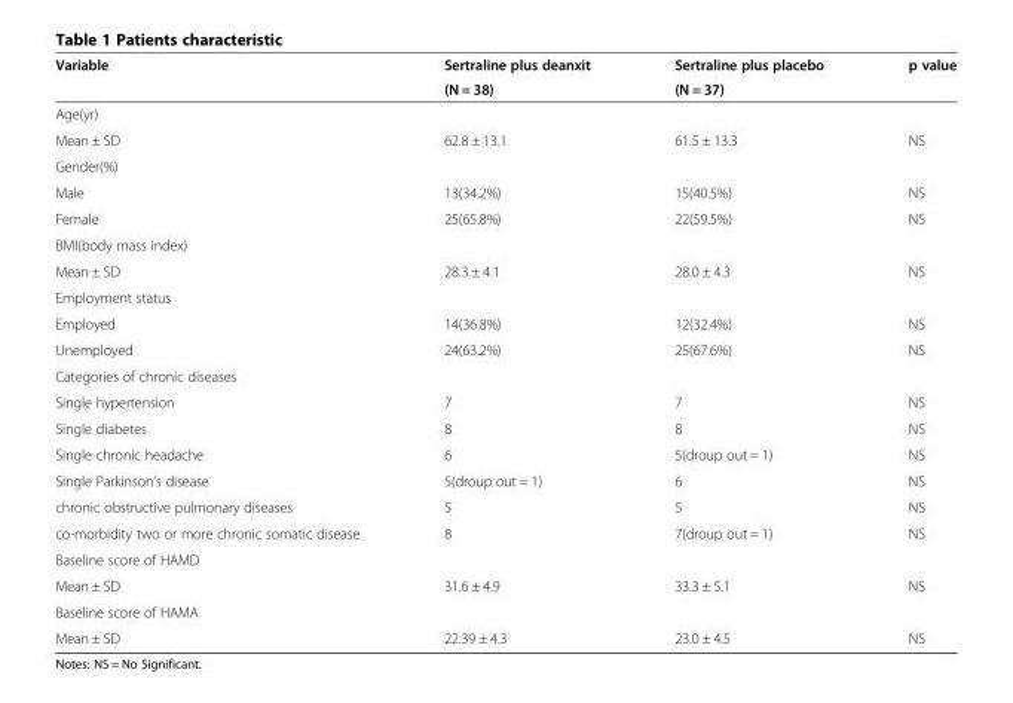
<table><thead><tr><td rowspan="2">Variable</td><td rowspan="2">Sertraline plus deanxit (N = 38)</td><td rowspan="2">Sertraline plus placebo (N = 37)</td><td rowspan="2">p value</td></tr><tr></tr></thead><tbody><tr><td colspan="4">Age(yr)</td></tr><tr><td>Mean ± SD</td><td>62.8 ± 13.1</td><td>61.5 ± 13.3</td><td>NS</td></tr><tr><td colspan="4">Gender(%)</td></tr><tr><td>Male</td><td>13(34.2%)</td><td>15(40.5%)</td><td>NS</td></tr><tr><td>Female</td><td>25(65.8%)</td><td>22(59.5%)</td><td>NS</td></tr><tr><td colspan="4">BMI(body mass index)</td></tr><tr><td>Mean ± SD</td><td>28.3 ± 4.1</td><td>28.0 ± 4.3</td><td>NS</td></tr><tr><td colspan="4">Employment status</td></tr><tr><td>Employed</td><td>14(36.8%)</td><td>12(32.4%)</td><td>NS</td></tr><tr><td>Unemployed</td><td>24(63.2%)</td><td>25(67.6%)</td><td>NS</td></tr><tr><td colspan="4">Categories of chronic diseases</td></tr><tr><td>Single hypertension</td><td>7</td><td>7</td><td>NS</td></tr><tr><td>Single diabetes</td><td>8</td><td>8</td><td>NS</td></tr><tr><td>Single chronic headache</td><td>6</td><td>5(droup out = 1)</td><td>NS</td></tr><tr><td>Single Parkinson’s disease</td><td>5(droup out = 1)</td><td>6</td><td>NS</td></tr><tr><td>chronic obstructive pulmonary diseases</td><td>5</td><td>5</td><td>NS</td></tr><tr><td>co-morbidity two or more chronic somatic disease</td><td>8</td><td>7(droup out = 1)</td><td>NS</td></tr><tr><td colspan="4">Baseline score of HAMD</td></tr><tr><td>Mean ± SD</td><td>31.6 ± 4.9</td><td>33.3 ± 5.1</td><td>NS</td></tr><tr><td colspan="4">Baseline score of HAMA</td></tr><tr><td>Mean ± SD</td><td>22.39 ± 4.3</td><td>23.0 ± 4.5</td><td>NS</td></tr></tbody></table>